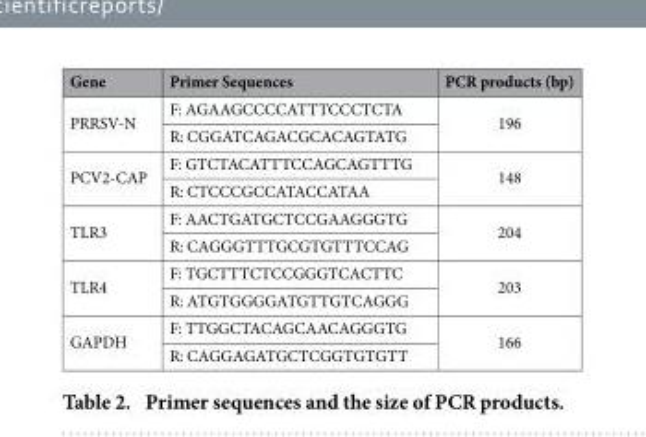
<table><thead><tr><td>Gene</td><td>Primer Sequences</td><td>PCR products (bp)</td></tr></thead><tbody><tr><td rowspan="2">PRRSV-N</td><td>F: AGAAGCCCCATTTCCCTCTA</td><td rowspan="2">196</td></tr><tr><td>R: CGGATCAGACGCACAGTATG</td></tr><tr><td rowspan="2">PCV2-CAP</td><td>F: GTCTACATTTCCAGCAGTTTG</td><td rowspan="2">148</td></tr><tr><td>R: CTCCCGCCATACCATAA</td></tr><tr><td rowspan="2">TLR3</td><td>F: AACTGATGCTCCGAAGGGTG</td><td rowspan="2">204</td></tr><tr><td>R: CAGGGTTTGCGTGTTTCCAG</td></tr><tr><td rowspan="2">TLR4</td><td>F: TGCTTTCTCCGGGTCACTTC</td><td rowspan="2">203</td></tr><tr><td>R: ATGTGGGGATGTTGTCAGGG</td></tr><tr><td rowspan="2">GAPDH</td><td>F: TTGGCTACAGCAACAGGGTG</td><td rowspan="2">166</td></tr><tr><td>R: CAGGAGATGCTCGGTGTGTT</td></tr></tbody></table>